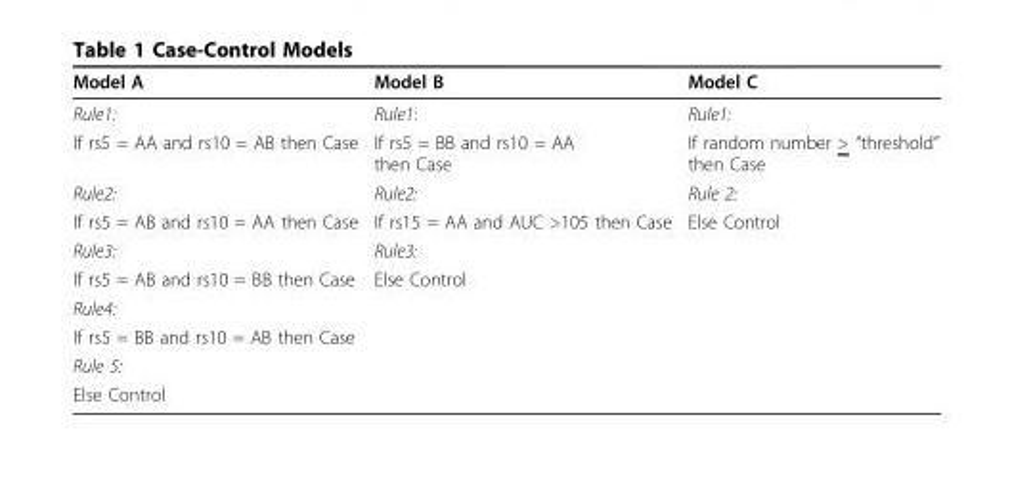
<table><thead><tr><td>Model A</td><td>Model B</td><td>Model C</td></tr></thead><tbody><tr><td>Rule1:</td><td>Rule1:</td><td>Rule1:</td></tr><tr><td>If rs5 = AA and rs10 = AB then Case</td><td>If rs5 = BB and rs10 = AA then Case</td><td>If random number &gt; “threshold” then Case</td></tr><tr><td>Rule2:</td><td>Rule2:</td><td>Rule 2:</td></tr><tr><td>If rs5 = AB and rs10 = AA then Case</td><td>If rs15 = AA and AUC &gt;105 then Case</td><td>Else Control</td></tr><tr><td>Rule3:</td><td>Rule3:</td><td></td></tr><tr><td>If rs5 = AB and rs10 = BB then Case</td><td>Else Control</td><td></td></tr><tr><td colspan="3">Rule4:</td></tr><tr><td colspan="3">If rs5 = BB and rs10 = AB then Case</td></tr><tr><td colspan="3">Rule 5:</td></tr><tr><td>Else Control</td><td></td><td></td></tr></tbody></table>